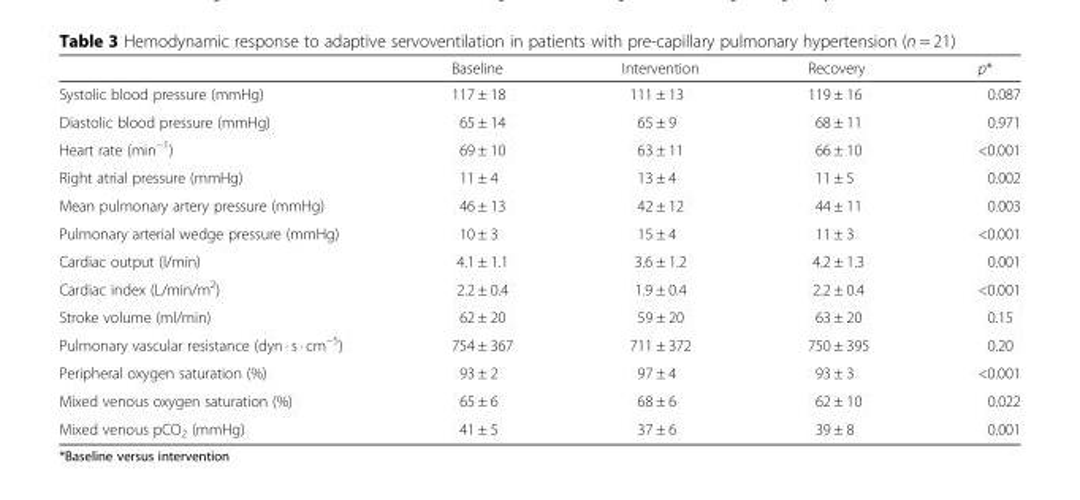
<table><thead><tr><td></td><td>Baseline</td><td>Intervention</td><td>Recovery</td><td>p*</td></tr></thead><tbody><tr><td>Systolic blood pressure (mmHg)</td><td>117 ± 18</td><td>111 ± 13</td><td>119 ± 16</td><td>0.087</td></tr><tr><td>Diastolic blood pressure (mmHg)</td><td>65 ± 14</td><td>65 ± 9</td><td>68 ± 11</td><td>0.971</td></tr><tr><td>Heart rate (min<sup>−1</sup>)</td><td>69 ± 10</td><td>63 ± 11</td><td>66 ± 10</td><td>&lt;0.001</td></tr><tr><td>Right atrial pressure (mmHg)</td><td>11 ± 4</td><td>13 ± 4</td><td>11 ± 5</td><td>0.002</td></tr><tr><td>Mean pulmonary artery pressure (mmHg)</td><td>46 ± 13</td><td>42 ± 12</td><td>44 ± 11</td><td>0.003</td></tr><tr><td>Pulmonary arterial wedge pressure (mmHg)</td><td>10 ± 3</td><td>15 ± 4</td><td>11 ± 3</td><td>&lt;0.001</td></tr><tr><td>Cardiac output (l/min)</td><td>4.1 ± 1.1</td><td>3.6 ± 1.2</td><td>4.2 ± 1.3</td><td>0.001</td></tr><tr><td>Cardiac index (L/min/m<sup>2</sup>)</td><td>2.2 ± 0.4</td><td>1.9 ± 0.4</td><td>2.2 ± 0.4</td><td>&lt;0.001</td></tr><tr><td>Stroke volume (ml/min)</td><td>62 ± 20</td><td>59 ± 20</td><td>63 ± 20</td><td>0.15</td></tr><tr><td>Pulmonary vascular resistance (dyn · s · cm<sup>−5</sup>)</td><td>754 ± 367</td><td>711 ± 372</td><td>750 ± 395</td><td>0.20</td></tr><tr><td>Peripheral oxygen saturation (%)</td><td>93 ± 2</td><td>97 ± 4</td><td>93 ± 3</td><td>&lt;0.001</td></tr><tr><td>Mixed venous oxygen saturation (%)</td><td>65 ± 6</td><td>68 ± 6</td><td>62 ± 10</td><td>0.022</td></tr><tr><td>Mixed venous pCO<sub>2</sub> (mmHg)</td><td>41 ± 5</td><td>37 ± 6</td><td>39 ± 8</td><td>0.001</td></tr></tbody></table>